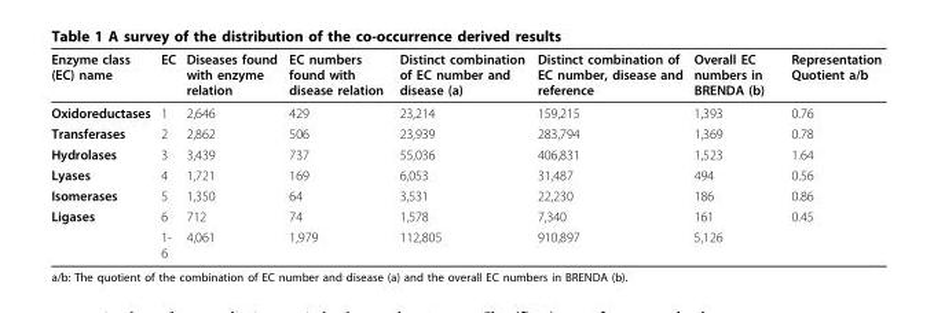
<table><thead><tr><td>Enzyme class (EC) name</td><td>EC</td><td>Diseases found with enzyme relation</td><td>EC numbers found with disease relation</td><td>Distinct combination of EC number and disease (a)</td><td>Distinct combination of EC number, disease and reference</td><td>Overall EC numbers in BRENDA (b)</td><td>Representation Quotient a/b</td></tr></thead><tbody><tr><td>Oxidoreductases</td><td>1</td><td>2,646</td><td>429</td><td>23,214</td><td>159,215</td><td>1,393</td><td>0.76</td></tr><tr><td>Transferases</td><td>2</td><td>2,862</td><td>506</td><td>23,939</td><td>283,794</td><td>1,369</td><td>0.78</td></tr><tr><td>Hydrolases</td><td>3</td><td>3,439</td><td>737</td><td>55,036</td><td>406,831</td><td>1,523</td><td>1.64</td></tr><tr><td>Lyases</td><td>4</td><td>1,721</td><td>169</td><td>6,053</td><td>31,487</td><td>494</td><td>0.56</td></tr><tr><td>Isomerases</td><td>5</td><td>1,350</td><td>64</td><td>3,531</td><td>22,230</td><td>186</td><td>0.86</td></tr><tr><td rowspan="2">Ligases</td><td>6</td><td>712</td><td>74</td><td>1,578</td><td>7,340</td><td>161</td><td>0.45</td></tr><tr><td>1- 6</td><td>4,061</td><td>1,979</td><td>112,805</td><td>910,897</td><td>5,126</td><td></td></tr></tbody></table>